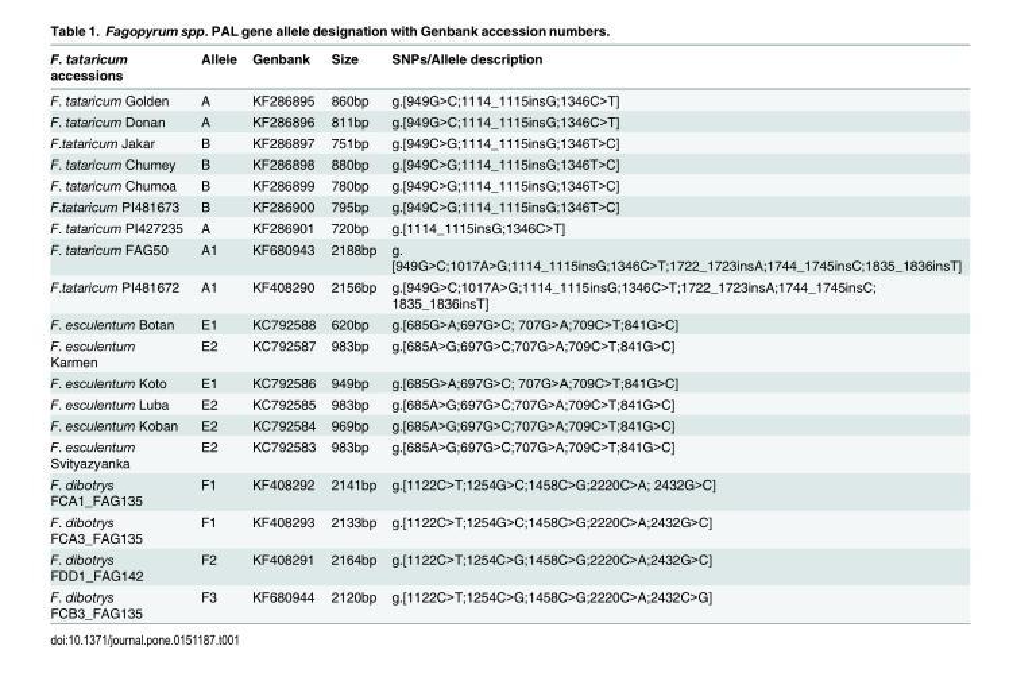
<table><thead><tr><td>F. tataricum accessions</td><td>Allele</td><td>Genbank</td><td>Size</td><td>SNPs/Allele description</td></tr></thead><tbody><tr><td>F. tataricum Golden</td><td>A</td><td>KF286895</td><td>860bp</td><td>g.[949G&gt;C;1114_1115insG;1346C&gt;T]</td></tr><tr><td>F. tataricum Donan</td><td>A</td><td>KF286896</td><td>811bp</td><td>g.[949G&gt;C;1114_1115insG;1346C&gt;T]</td></tr><tr><td>F.tataricum Jakar</td><td>B</td><td>KF286897</td><td>751bp</td><td>g.[949C&gt;G;1114_1115insG;1346T&gt;C]</td></tr><tr><td>F. tataricum Chumey</td><td>B</td><td>KF286898</td><td>880bp</td><td>g.[949C&gt;G;1114_1115insG;1346T&gt;C]</td></tr><tr><td>F. tataricum Chumoa</td><td>B</td><td>KF286899</td><td>780bp</td><td>g.[949C&gt;G;1114_1115insG;1346T&gt;C]</td></tr><tr><td>F.tataricum PI481673</td><td>B</td><td>KF286900</td><td>795bp</td><td>g.[949C&gt;G;1114_1115insG;1346T&gt;C]</td></tr><tr><td>F. tataricum PI427235</td><td>A</td><td>KF286901</td><td>720bp</td><td>g.[1114_1115insG;1346C&gt;T]</td></tr><tr><td>F. tataricum FAG50</td><td>A1</td><td>KF680943</td><td>2188bp</td><td>g. [949G&gt;C;1017A&gt;G;1114_1115insG;1346C&gt;T;1722_1723insA;1744_1745insC;1835_1836insT]</td></tr><tr><td>F.tataricum PI481672</td><td>A1</td><td>KF408290</td><td>2156bp</td><td>g.[949G&gt;C;1017A&gt;G;1114_1115insG;1346C&gt;T;1722_1723insA;1744_1745insC; 1835_1836insT]</td></tr><tr><td>F. esculentum Botan</td><td>E1</td><td>KC792588</td><td>620bp</td><td>g.[685G&gt;A;697G&gt;C; 707G&gt;A;709C&gt;T;841G&gt;C]</td></tr><tr><td>F. esculentum Karmen</td><td>E2</td><td>KC792587</td><td>983bp</td><td>g.[685A&gt;G;697G&gt;C;707G&gt;A;709C&gt;T;841G&gt;C]</td></tr><tr><td>F. esculentum Koto</td><td>E1</td><td>KC792586</td><td>949bp</td><td>g.[685G&gt;A;697G&gt;C; 707G&gt;A;709C&gt;T;841G&gt;C]</td></tr><tr><td>F. esculentum Luba</td><td>E2</td><td>KC792585</td><td>983bp</td><td>g.[685A&gt;G;697G&gt;C;707G&gt;A;709C&gt;T;841G&gt;C]</td></tr><tr><td>F. esculentum Koban</td><td>E2</td><td>KC792584</td><td>969bp</td><td>g.[685A&gt;G;697G&gt;C;707G&gt;A;709C&gt;T;841G&gt;C]</td></tr><tr><td>F. esculentum Svityazyanka</td><td>E2</td><td>KC792583</td><td>983bp</td><td>g.[685A&gt;G;697G&gt;C;707G&gt;A;709C&gt;T;841G&gt;C]</td></tr><tr><td>F. dibotrys FCA1_FAG135</td><td>F1</td><td>KF408292</td><td>2141bp</td><td>g.[1122C&gt;T;1254G&gt;C;1458C&gt;G;2220C&gt;A; 2432G&gt;C]</td></tr><tr><td>F. dibotrys FCA3_FAG135</td><td>F1</td><td>KF408293</td><td>2133bp</td><td>g.[1122C&gt;T;1254G&gt;C;1458C&gt;G;2220C&gt;A;2432G&gt;C]</td></tr><tr><td>F. dibotrys FDD1_FAG142</td><td>F2</td><td>KF408291</td><td>2164bp</td><td>g.[1122C&gt;T;1254C&gt;G;1458C&gt;G;2220C&gt;A;2432G&gt;C]</td></tr><tr><td>F. dibotrys FCB3_FAG135</td><td>F3</td><td>KF680944</td><td>2120bp</td><td>g.[1122C&gt;T;1254C&gt;G;1458C&gt;G;2220C&gt;A;2432C&gt;G]</td></tr></tbody></table>